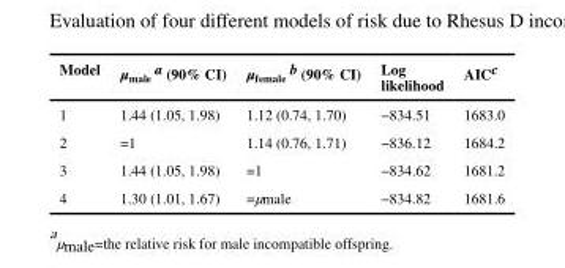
<table><thead><tr><td>Model</td><td>μ<sub>male</sub> a (90% CI)</td><td>μ<sub>female</sub> b (90% CI)</td><td>Log likelihood</td><td>AIC<sup>c</sup></td></tr></thead><tbody><tr><td>1</td><td>1.44 (1.05, 1.98)</td><td>1.12 (0.74, 1.70)</td><td>−834.51</td><td>1683.0</td></tr><tr><td>2</td><td>=1</td><td>1.14 (0.76, 1.71)</td><td>−836.12</td><td>1684.2</td></tr><tr><td>3</td><td>1.44 (1.05, 1.98)</td><td>=1</td><td>−834.62</td><td>1681.2</td></tr><tr><td>4</td><td>1.30 (1.01, 1.67)</td><td>=μmale</td><td>−834.82</td><td>1681.6</td></tr></tbody></table>